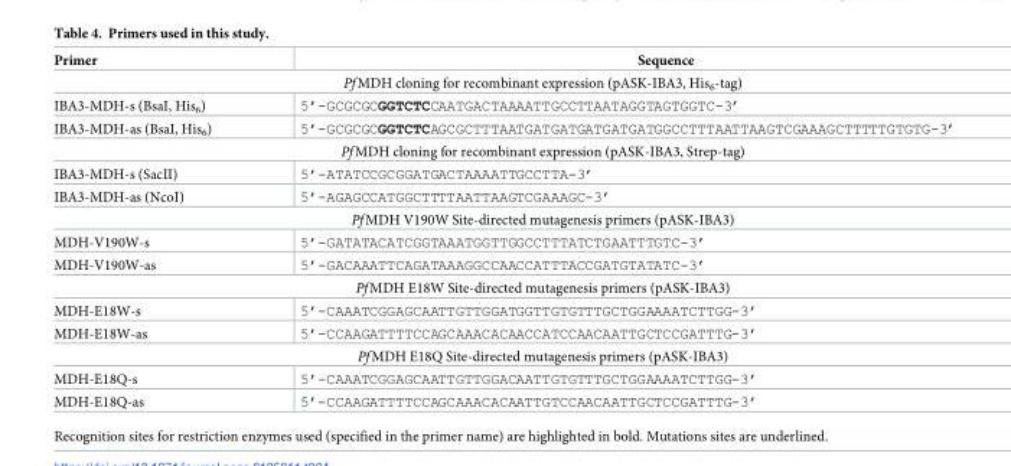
<table><thead><tr><td>Primer</td><td>Sequence</td></tr></thead><tbody><tr><td colspan="2">PfMDH cloning for recombinant expression (pASK-IBA3, His<sub>6</sub>-tag)</td></tr><tr><td>IBA3-MDH-s (BsaI, His<sub>6</sub>)</td><td>5’-GCGCGCGGTCTCCAATGACTAAAATTGCCTTAATAGGTAGTGGTC-3’</td></tr><tr><td>IBA3-MDH-as (BsaI, His<sub>6</sub>)</td><td>5’-GCGCGCGGTCTCAGCGCTTTAATGATGATGATGATGATGGCCTTTAATTAAGTCGAAAGCTTTTTGTGTG-3’</td></tr><tr><td colspan="2">PfMDH cloning for recombinant expression (pASK-IBA3, Strep-tag)</td></tr><tr><td>IBA3-MDH-s (SacII)</td><td>5’-ATATCCGCGGATGACTAAAATTGCCTTA-3’</td></tr><tr><td>IBA3-MDH-as (NcoI)</td><td>5’-AGAGCCATGGCTTTTAATTAAGTCGAAAGC-3’</td></tr><tr><td colspan="2">PfMDH V190W Site-directed mutagenesis primers (pASK-IBA3)</td></tr><tr><td>MDH-V190W-s</td><td>5’-GATATACATCGGTAAATGGTTGGCCTTTATCTGAATTTGTC-3’</td></tr><tr><td>MDH-V190W-as</td><td>5’-GACAAATTCAGATAAAGGCCAACCATTTACCGATGTATATC-3’</td></tr><tr><td colspan="2">PfMDH E18W Site-directed mutagenesis primers (pASK-IBA3)</td></tr><tr><td>MDH-E18W-s</td><td>5’-CAAATCGGAGCAATTGTTGGATGGTTGTGTTTGCTGGAAAATCTTGG-3’</td></tr><tr><td>MDH-E18W-as</td><td>5’-CCAAGATTTTCCAGCAAACACAACCATCCAACAATTGCTCCGATTTG-3’</td></tr><tr><td colspan="2">PfMDH E18Q Site-directed mutagenesis primers (pASK-IBA3)</td></tr><tr><td>MDH-E18Q-s</td><td>5’-CAAATCGGAGCAATTGTTGGACAATTGTGTTTGCTGGAAAATCTTGG-3’</td></tr><tr><td>MDH-E18Q-as</td><td>5’-CCAAGATTTTCCAGCAAACACAATTGTCCAACAATTGCTCCGATTTG-3’</td></tr></tbody></table>